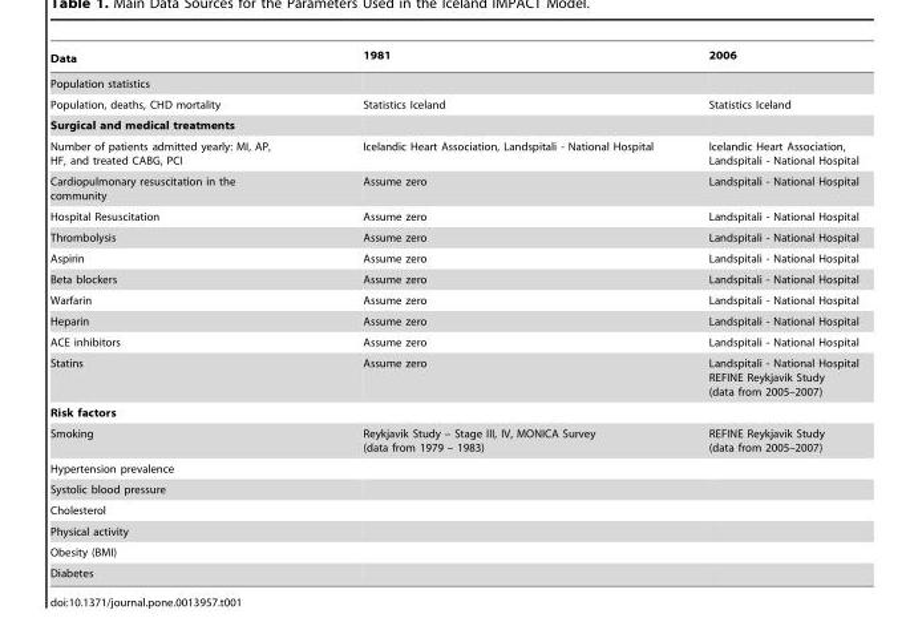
<table><thead><tr><td>Data</td><td>1981</td><td>2006</td></tr></thead><tbody><tr><td colspan="3">Population statistics</td></tr><tr><td>Population, deaths, CHD mortality</td><td>Statistics Iceland</td><td>Statistics Iceland</td></tr><tr><td colspan="3">Surgical and medical treatments</td></tr><tr><td>Number of patients admitted yearly: MI, AP, HF, and treated CABG, PCI</td><td>Icelandic Heart Association, Landspitali - National Hospital</td><td>Icelandic Heart Association, Landspitali - National Hospital</td></tr><tr><td>Cardiopulmonary resuscitation in the community</td><td>Assume zero</td><td>Landspitali - National Hospital</td></tr><tr><td>Hospital Resuscitation</td><td>Assume zero</td><td>Landspitali - National Hospital</td></tr><tr><td>Thrombolysis</td><td>Assume zero</td><td>Landspitali - National Hospital</td></tr><tr><td>Aspirin</td><td>Assume zero</td><td>Landspitali - National Hospital</td></tr><tr><td>Beta blockers</td><td>Assume zero</td><td>Landspitali - National Hospital</td></tr><tr><td>Warfarin</td><td>Assume zero</td><td>Landspitali - National Hospital</td></tr><tr><td>Heparin</td><td>Assume zero</td><td>Landspitali - National Hospital</td></tr><tr><td>ACE inhibitors</td><td>Assume zero</td><td>Landspitali - National Hospital</td></tr><tr><td>Statins</td><td>Assume zero</td><td>Landspitali - National Hospital REFINE Reykjavik Study (data from 2005–2007)</td></tr><tr><td colspan="3">Risk factors</td></tr><tr><td>Smoking</td><td>Reykjavik Study – Stage III, IV, MONICA Survey (data from 1979 – 1983)</td><td>REFINE Reykjavik Study (data from 2005–2007)</td></tr><tr><td colspan="3">Hypertension prevalence</td></tr><tr><td colspan="3">Systolic blood pressure</td></tr><tr><td colspan="3">Cholesterol</td></tr><tr><td colspan="3">Physical activity</td></tr><tr><td colspan="3">Obesity (BMI)</td></tr><tr><td>Diabetes</td><td></td><td></td></tr></tbody></table>